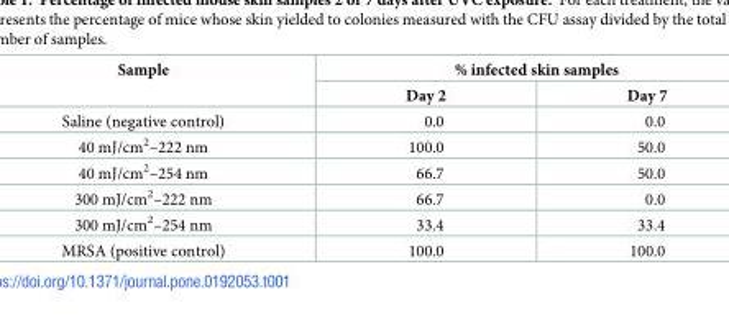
<table><thead><tr><td rowspan="2">Sample</td><td colspan="2">% infected skin samples</td></tr><tr><td>Day 2</td><td>Day 7</td></tr></thead><tbody><tr><td>Saline (negative control)</td><td>0.0</td><td>0.0</td></tr><tr><td>40 mJ/cm<sup>2</sup>–222 nm</td><td>100.0</td><td>50.0</td></tr><tr><td>40 mJ/cm<sup>2</sup>–254 nm</td><td>66.7</td><td>50.0</td></tr><tr><td>300 mJ/cm<sup>2</sup>–222 nm</td><td>66.7</td><td>0.0</td></tr><tr><td>300 mJ/cm<sup>2</sup>–254 nm</td><td>33.4</td><td>33.4</td></tr><tr><td>MRSA (positive control)</td><td>100.0</td><td>100.0</td></tr></tbody></table>